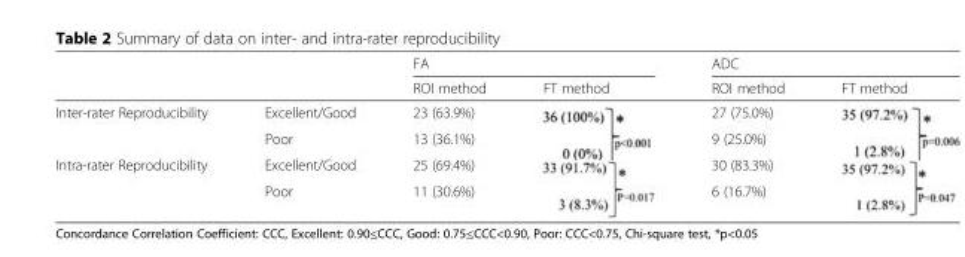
<table><thead><tr><td rowspan="2"></td><td rowspan="2"></td><td colspan="2">FA</td><td colspan="2">ADC</td></tr><tr><td>ROI method</td><td>FT method</td><td>ROI method</td><td>FT method</td></tr></thead><tbody><tr><td rowspan="2">Inter-rater Reproducibility</td><td>Excellent/Good</td><td>23 (63.9%)</td><td rowspan="2"></td><td>27 (75.0%)</td><td rowspan="2"></td></tr><tr><td>Poor</td><td>13 (36.1%)</td><td>9 (25.0%)</td></tr><tr><td rowspan="2">Intra-rater Reproducibility</td><td>Excellent/Good</td><td>25 (69.4%)</td><td rowspan="2"></td><td>30 (83.3%)</td><td rowspan="2"></td></tr><tr><td>Poor</td><td>11 (30.6%)</td><td>6 (16.7%)</td></tr></tbody></table>